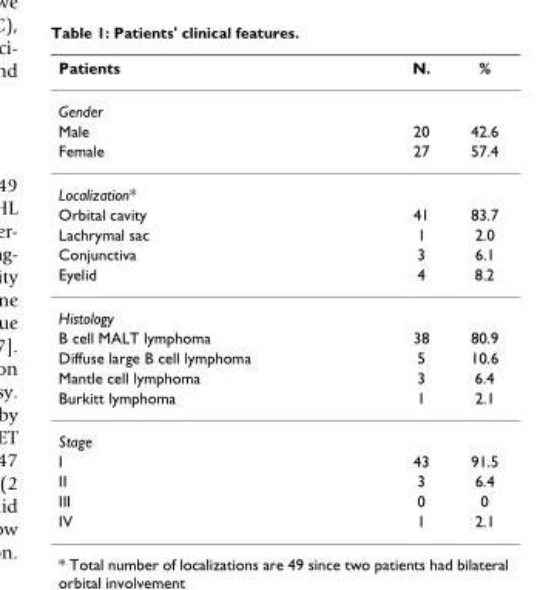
<table><thead><tr><td>Patients</td><td>N.</td><td>%</td></tr></thead><tbody><tr><td colspan="3">Gender</td></tr><tr><td>Male</td><td>20</td><td>42.6</td></tr><tr><td>Female</td><td>27</td><td>57.4</td></tr><tr><td colspan="3">Localization*</td></tr><tr><td>Orbital cavity</td><td>41</td><td>83.7</td></tr><tr><td>Lachrymal sac</td><td>1</td><td>2.0</td></tr><tr><td>Conjunctiva</td><td>3</td><td>6.1</td></tr><tr><td>Eyelid</td><td>4</td><td>8.2</td></tr><tr><td colspan="3">Histology</td></tr><tr><td>B cell MALT lymphoma</td><td>38</td><td>80.9</td></tr><tr><td>Diffuse large B cell lymphoma</td><td>5</td><td>10.6</td></tr><tr><td>Mantle cell lymphoma</td><td>3</td><td>6.4</td></tr><tr><td>Burkitt lymphoma</td><td>1</td><td>2.1</td></tr><tr><td colspan="3">Stage</td></tr><tr><td>I</td><td>43</td><td>91.5</td></tr><tr><td>II</td><td>3</td><td>6.4</td></tr><tr><td>III</td><td>0</td><td>0</td></tr><tr><td>IV</td><td>1</td><td>2.1</td></tr></tbody></table>